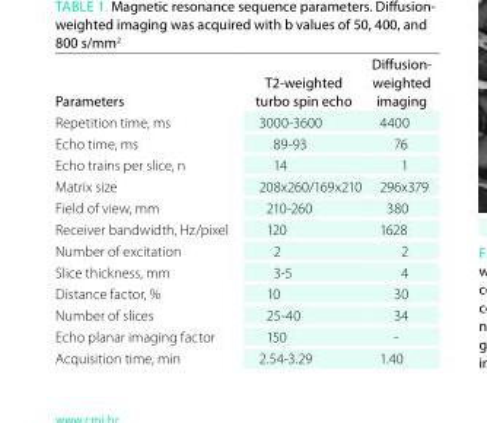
<table><thead><tr><td>Parameters</td><td>t2-weighted turbo spin echo</td><td>diffusion- weighted imaging</td></tr></thead><tbody><tr><td>Repetition time, ms</td><td>3000-3600</td><td>4400</td></tr><tr><td>Echo time, ms</td><td>89-93</td><td>76</td></tr><tr><td>Echo trains per slice, n</td><td>14</td><td>1</td></tr><tr><td>Matrix size</td><td>208x260/169x210</td><td>296x379</td></tr><tr><td>Field of view, mm</td><td>210-260</td><td>380</td></tr><tr><td>Receiver bandwidth, Hz/pixel</td><td>120</td><td>1628</td></tr><tr><td>Number of excitation</td><td>2</td><td>2</td></tr><tr><td>Slice thickness, mm</td><td>3-5</td><td>4</td></tr><tr><td>Distance factor, %</td><td>10</td><td>30</td></tr><tr><td>Number of slices</td><td>25-40</td><td>34</td></tr><tr><td>Echo planar imaging factor</td><td>150</td><td>-</td></tr><tr><td>Acquisition time, min</td><td>2.54-3.29</td><td>1.40</td></tr></tbody></table>